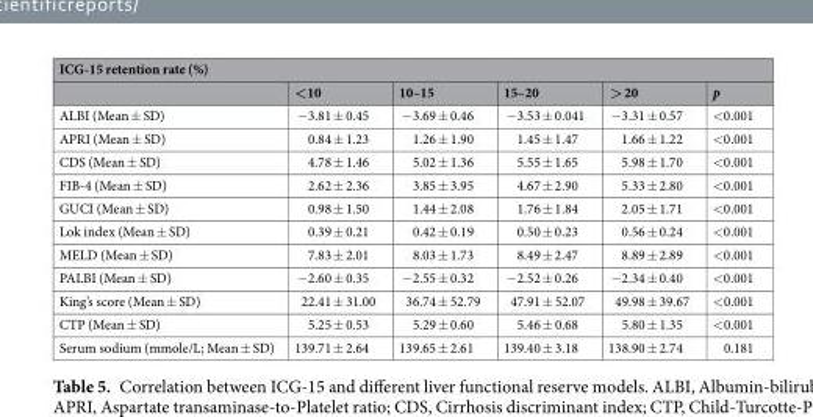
<table><thead><tr><td colspan="6">ICG-15 retention rate (%)</td></tr><tr><td></td><td>&lt;10</td><td>10–15</td><td>15–20</td><td>&gt; 20</td><td>p</td></tr></thead><tbody><tr><td>ALBI (Mean ± SD)</td><td>−3.81 ± 0.45</td><td>−3.69 ± 0.46</td><td>−3.53 ± 0.041</td><td>−3.31 ± 0.57</td><td>&lt;0.001</td></tr><tr><td>APRI (Mean ± SD)</td><td>0.84 ± 1.23</td><td>1.26 ± 1.90</td><td>1.45 ± 1.47</td><td>1.66 ± 1.22</td><td>&lt;0.001</td></tr><tr><td>CDS (Mean ± SD)</td><td>4.78 ± 1.46</td><td>5.02 ± 1.36</td><td>5.55 ± 1.65</td><td>5.98 ± 1.70</td><td>&lt;0.001</td></tr><tr><td>FIB-4 (Mean ± SD)</td><td>2.62 ± 2.36</td><td>3.85 ± 3.95</td><td>4.67 ± 2.90</td><td>5.33 ± 2.80</td><td>&lt;0.001</td></tr><tr><td>GUCI (Mean ± SD)</td><td>0.98 ± 1.50</td><td>1.44 ± 2.08</td><td>1.76 ± 1.84</td><td>2.05 ± 1.71</td><td>&lt;0.001</td></tr><tr><td>Lok index (Mean ± SD)</td><td>0.39 ± 0.21</td><td>0.42 ± 0.19</td><td>0.50 ± 0.23</td><td>0.56 ± 0.24</td><td>&lt;0.001</td></tr><tr><td>MELD (Mean ± SD)</td><td>7.83 ± 2.01</td><td>8.03 ± 1.73</td><td>8.49 ± 2.47</td><td>8.89 ± 2.89</td><td>&lt;0.001</td></tr><tr><td>PALBI (Mean ± SD)</td><td>−2.60 ± 0.35</td><td>−2.55 ± 0.32</td><td>−2.52 ± 0.26</td><td>−2.34 ± 0.40</td><td>&lt;0.001</td></tr><tr><td>King’s score (Mean ± SD)</td><td>22.41 ± 31.00</td><td>36.74 ± 52.79</td><td>47.91 ± 52.07</td><td>49.98 ± 39.67</td><td>&lt;0.001</td></tr><tr><td>CTP (Mean ± SD)</td><td>5.25 ± 0.53</td><td>5.29 ± 0.60</td><td>5.46 ± 0.68</td><td>5.80 ± 1.35</td><td>&lt;0.001</td></tr><tr><td>Serum sodium (mmole/L; Mean ± SD)</td><td>139.71 ± 2.64</td><td>139.65 ± 2.61</td><td>139.40 ± 3.18</td><td>138.90 ± 2.74</td><td>0.181</td></tr></tbody></table>